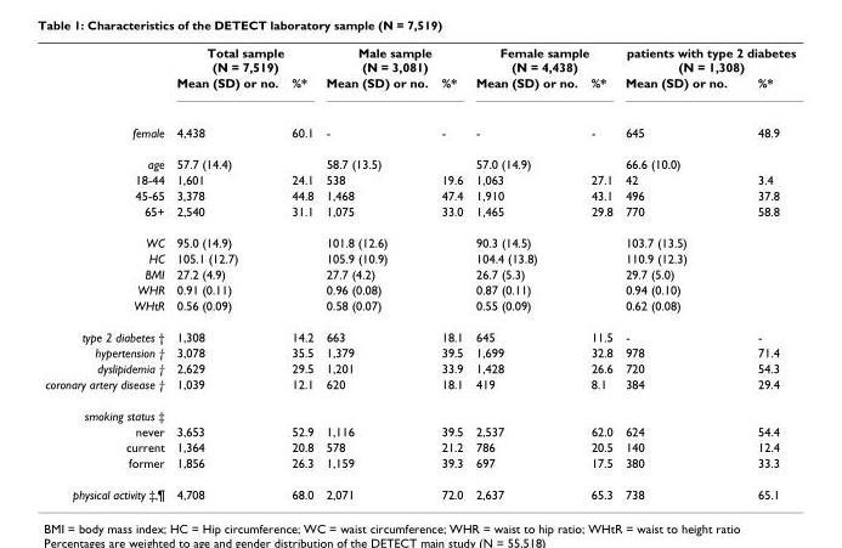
<table><thead><tr><td rowspan="2"></td><td colspan="2">Total sample (N = 7,519)</td><td colspan="2">Male sample (N = 3,081)</td><td colspan="2">Female sample (N = 4,438)</td><td colspan="2">patients with type 2 diabetes (N = 1,308)</td></tr><tr><td>Mean (SD) or no.</td><td>%*</td><td>Mean (SD) or no.</td><td>%*</td><td>Mean (SD) or no.</td><td>%*</td><td>Mean (SD) or no.</td><td>%*</td></tr></thead><tbody><tr><td>female</td><td>4,438</td><td>60.1</td><td>-</td><td>-</td><td>-</td><td>-</td><td>645</td><td>48.9</td></tr><tr><td>age</td><td>57.7 (14.4)</td><td></td><td>58.7 (13.5)</td><td></td><td>57.0 (14.9)</td><td></td><td>66.6 (10.0)</td><td></td></tr><tr><td>18-44</td><td>1,601</td><td>24.1</td><td>538</td><td>19.6</td><td>1,063</td><td>27.1</td><td>42</td><td>3.4</td></tr><tr><td>45-65</td><td>3,378</td><td>44.8</td><td>1,468</td><td>47.4</td><td>1,910</td><td>43.1</td><td>496</td><td>37.8</td></tr><tr><td>65+</td><td>2,540</td><td>31.1</td><td>1,075</td><td>33.0</td><td>1,465</td><td>29.8</td><td>770</td><td>58.8</td></tr><tr><td>WC</td><td>95.0 (14.9)</td><td></td><td>101.8 (12.6)</td><td></td><td>90.3 (14.5)</td><td></td><td>103.7 (13.5)</td><td></td></tr><tr><td>HC</td><td>105.1 (12.7)</td><td></td><td>105.9 (10.9)</td><td></td><td>104.4 (13.8)</td><td></td><td>110.9 (12.3)</td><td></td></tr><tr><td>BMI</td><td>27.2 (4.9)</td><td></td><td>27.7 (4.2)</td><td></td><td>26.7 (5.3)</td><td></td><td>29.7 (5.0)</td><td></td></tr><tr><td>WHR</td><td>0.91 (0.11)</td><td></td><td>0.96 (0.08)</td><td></td><td>0.87 (0.11)</td><td></td><td>0.94 (0.10)</td><td></td></tr><tr><td>WHtR</td><td>0.56 (0.09)</td><td></td><td>0.58 (0.07)</td><td></td><td>0.55 (0.09)</td><td></td><td>0.62 (0.08)</td><td></td></tr><tr><td>type 2 diabetes †</td><td>1,308</td><td>14.2</td><td>663</td><td>18.1</td><td>645</td><td>11.5</td><td>-</td><td>-</td></tr><tr><td>hypertension †</td><td>3,078</td><td>35.5</td><td>1,379</td><td>39.5</td><td>1,699</td><td>32.8</td><td>978</td><td>71.4</td></tr><tr><td>dyslipidemia †</td><td>2,629</td><td>29.5</td><td>1,201</td><td>33.9</td><td>1,428</td><td>26.6</td><td>720</td><td>54.3</td></tr><tr><td>coronary artery disease †</td><td>1,039</td><td>12.1</td><td>620</td><td>18.1</td><td>419</td><td>8.1</td><td>384</td><td>29.4</td></tr><tr><td colspan="9">smoking status ‡</td></tr><tr><td>never</td><td>3,653</td><td>52.9</td><td>1,116</td><td>39.5</td><td>2,537</td><td>62.0</td><td>624</td><td>54.4</td></tr><tr><td>current</td><td>1,364</td><td>20.8</td><td>578</td><td>21.2</td><td>786</td><td>20.5</td><td>140</td><td>12.4</td></tr><tr><td>former</td><td>1,856</td><td>26.3</td><td>1,159</td><td>39.3</td><td>697</td><td>17.5</td><td>380</td><td>33.3</td></tr><tr><td>physical activity ‡,¶</td><td>4,708</td><td>68.0</td><td>2,071</td><td>72.0</td><td>2,637</td><td>65.3</td><td>738</td><td>65.1</td></tr></tbody></table>